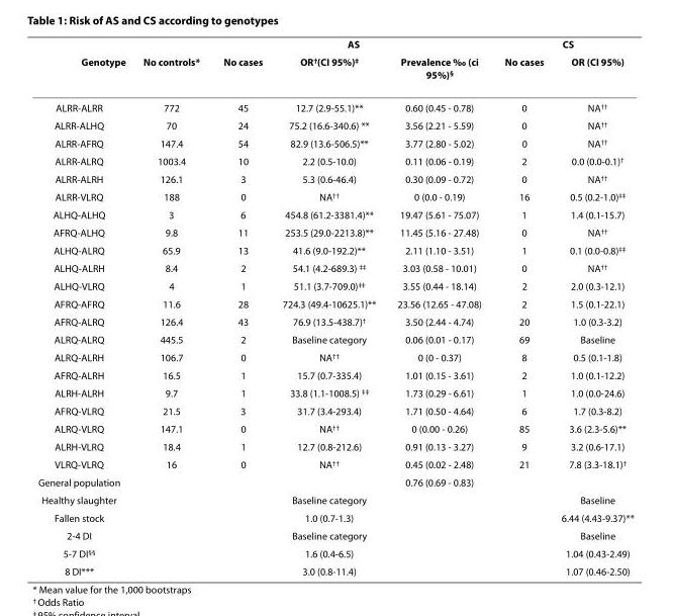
<table><thead><tr><td rowspan="2">Genotype</td><td rowspan="2">No controls*</td><td colspan="3">AS</td><td colspan="2">CS</td></tr><tr><td>No cases</td><td>OR<sup>†</sup>(CI 95%)<sup>‡</sup></td><td>Prevalence ‰ (ci 95%)<sup>§</sup></td><td>No cases</td><td>OR (CI 95%)</td></tr></thead><tbody><tr><td>ALRR-ALRR</td><td>772</td><td>45</td><td>12.7 (2.9-55.1)**</td><td>0.60 (0.45 - 0.78)</td><td>0</td><td>NA<sup>††</sup></td></tr><tr><td>ALRR-ALHQ</td><td>70</td><td>24</td><td>75.2 (16.6-340.6) **</td><td>3.56 (2.21 - 5.59)</td><td>0</td><td>NA<sup>††</sup></td></tr><tr><td>ALRR-AFRQ</td><td>147.4</td><td>54</td><td>82.9 (13.6-506.5)**</td><td>3.77 (2.80 - 5.02)</td><td>0</td><td>NA<sup>††</sup></td></tr><tr><td>ALRR-ALRQ</td><td>1003.4</td><td>10</td><td>2.2 (0.5-10.0)</td><td>0.11 (0.06 - 0.19)</td><td>2</td><td>0.0 (0.0-0.1)<sup>†</sup></td></tr><tr><td>ALRR-ALRH</td><td>126.1</td><td>3</td><td>5.3 (0.6-46.4)</td><td>0.30 (0.09 - 0.72)</td><td>0</td><td>NA<sup>††</sup></td></tr><tr><td>ALRR-VLRQ</td><td>188</td><td>0</td><td>NA<sup>††</sup></td><td>0 (0.0 - 0.19)</td><td>16</td><td>0.5 (0.2-1.0)<sup>‡‡</sup></td></tr><tr><td>ALHQ-ALHQ</td><td>3</td><td>6</td><td>454.8 (61.2-3381.4)**</td><td>19.47 (5.61 - 75.07)</td><td>1</td><td>1.4 (0.1-15.7)</td></tr><tr><td>AFRQ-ALHQ</td><td>9.8</td><td>11</td><td>253.5 (29.0-2213.8)**</td><td>11.45 (5.16 - 27.48)</td><td>0</td><td>NA<sup>††</sup></td></tr><tr><td>ALHQ-ALRQ</td><td>65.9</td><td>13</td><td>41.6 (9.0-192.2)**</td><td>2.11 (1.10 - 3.51)</td><td>1</td><td>0.1 (0.0-0.8)<sup>‡‡</sup></td></tr><tr><td>ALHQ-ALRH</td><td>8.4</td><td>2</td><td>54.1 (4.2-689.3) <sup>‡‡</sup></td><td>3.03 (0.58 - 10.01)</td><td>0</td><td>NA<sup>††</sup></td></tr><tr><td>ALHQ-VLRQ</td><td>4</td><td>1</td><td>51.1 (3.7-709.0)<sup>‡‡</sup></td><td>3.55 (0.44 - 18.14)</td><td>2</td><td>2.0 (0.3-12.1)</td></tr><tr><td>AFRQ-AFRQ</td><td>11.6</td><td>28</td><td>724.3 (49.4-10625.1)**</td><td>23.56 (12.65 - 47.08)</td><td>2</td><td>1.5 (0.1-22.1)</td></tr><tr><td>AFRQ-ALRQ</td><td>126.4</td><td>43</td><td>76.9 (13.5-438.7)<sup>†</sup></td><td>3.50 (2.44 - 4.74)</td><td>20</td><td>1.0 (0.3-3.2)</td></tr><tr><td>ALRQ-ALRQ</td><td>445.5</td><td>2</td><td>Baseline category</td><td>0.06 (0.01 - 0.17)</td><td>69</td><td>Baseline</td></tr><tr><td>ALRQ-ALRH</td><td>106.7</td><td>0</td><td>NA<sup>††</sup></td><td>0 (0 - 0.37)</td><td>8</td><td>0.5 (0.1-1.8)</td></tr><tr><td>AFRQ-ALRH</td><td>16.5</td><td>1</td><td>15.7 (0.7-335.4)</td><td>1.01 (0.15 - 3.61)</td><td>2</td><td>1.0 (0.1-12.2)</td></tr><tr><td>ALRH-ALRH</td><td>9.7</td><td>1</td><td>33.8 (1.1-1008.5) <sup>‡‡</sup></td><td>1.73 (0.29 - 6.61)</td><td>1</td><td>1.0 (0.0-24.6)</td></tr><tr><td>AFRQ-VLRQ</td><td>21.5</td><td>3</td><td>31.7 (3.4-293.4)</td><td>1.71 (0.50 - 4.64)</td><td>6</td><td>1.7 (0.3-8.2)</td></tr><tr><td>ALRQ-VLRQ</td><td>147.1</td><td>0</td><td>NA<sup>††</sup></td><td>0 (0.00 - 0.26)</td><td>85</td><td>3.6 (2.3-5.6)**</td></tr><tr><td>ALRH-VLRQ</td><td>18.4</td><td>1</td><td>12.7 (0.8-212.6)</td><td>0.91 (0.13 - 3.27)</td><td>9</td><td>3.2 (0.6-17.1)</td></tr><tr><td>VLRQ-VLRQ</td><td>16</td><td>0</td><td>NA<sup>††</sup></td><td>0.45 (0.02 - 2.48)</td><td>21</td><td>7.8 (3.3-18.1)<sup>†</sup></td></tr><tr><td>General population</td><td></td><td></td><td></td><td>0.76 (0.69 - 0.83)</td><td></td><td></td></tr><tr><td>Healthy slaughter</td><td></td><td></td><td>Baseline category</td><td></td><td></td><td>Baseline</td></tr><tr><td>Fallen stock</td><td></td><td></td><td>1.0 (0.7-1.3)</td><td></td><td></td><td>6.44 (4.43-9.37)**</td></tr><tr><td>2-4 DI</td><td></td><td></td><td>Baseline category</td><td></td><td></td><td>Baseline</td></tr><tr><td>5-7 DI<sup>§§</sup></td><td></td><td></td><td>1.6 (0.4-6.5)</td><td></td><td></td><td>1.04 (0.43-2.49)</td></tr><tr><td>8 DI***</td><td></td><td></td><td>3.0 (0.8-11.4)</td><td></td><td></td><td>1.07 (0.46-2.50)</td></tr></tbody></table>